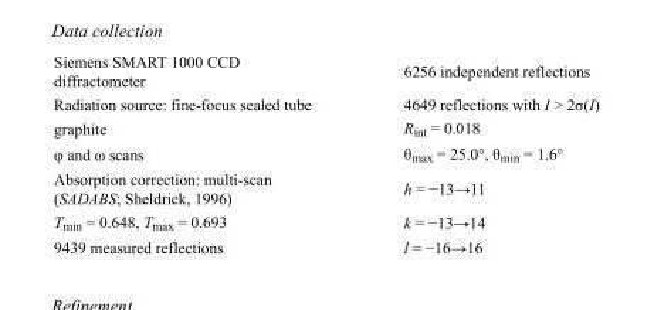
<table><tbody><tr><td>Siemens SMART 1000 CCD diffractometer</td><td>6256 independent reflections</td></tr><tr><td>Radiation source: fine-focus sealed tube</td><td>4649 reflections with I &gt; 2σ(I)</td></tr><tr><td>graphite</td><td>R<sub>int</sub> = 0.018</td></tr><tr><td>φ and ω scans</td><td>θ<sub>max</sub> = 25.0°, θ<sub>min</sub> = 1.6°</td></tr><tr><td>Absorption correction: multi-scan (SADABS; Sheldrick, 1996)</td><td>h = −13→11</td></tr><tr><td>T<sub>min</sub> = 0.648, T<sub>max</sub> = 0.693</td><td>k = −13→14</td></tr><tr><td>9439 measured reflections</td><td>l = −16→16</td></tr></tbody></table>